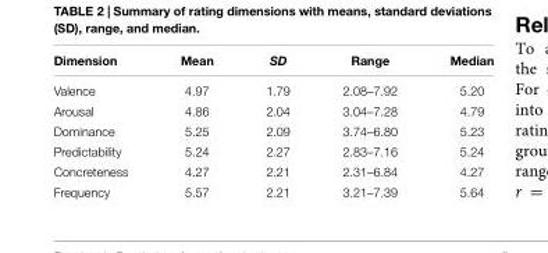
<table><thead><tr><td>Dimension</td><td>Mean</td><td>SD</td><td>Range</td><td>Median</td></tr></thead><tbody><tr><td>Valence</td><td>4.97</td><td>1.79</td><td>2.08–7.92</td><td>5.20</td></tr><tr><td>Arousal</td><td>4.86</td><td>2.04</td><td>3.04–7.28</td><td>4.79</td></tr><tr><td>Dominance</td><td>5.25</td><td>2.09</td><td>3.74–6.80</td><td>5.23</td></tr><tr><td>Predictability</td><td>5.24</td><td>2.27</td><td>2.83–7.16</td><td>5.24</td></tr><tr><td>Concreteness</td><td>4.27</td><td>2.21</td><td>2.31–6.84</td><td>4.27</td></tr><tr><td>Frequency</td><td>5.57</td><td>2.21</td><td>3.21–7.39</td><td>5.64</td></tr></tbody></table>